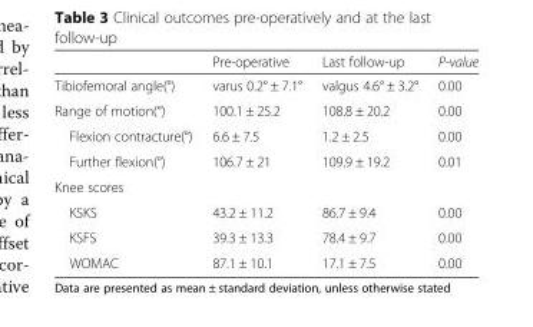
<table><thead><tr><td></td><td>Pre-operative</td><td>Last follow-up</td><td>P-value</td></tr></thead><tbody><tr><td>Tibiofemoral angle(°)</td><td>varus 0.2° ± 7.1°</td><td>valgus 4.6° ± 3.2°</td><td>0.00</td></tr><tr><td>Range of motion(°)</td><td>100.1 ± 25.2</td><td>108.8 ± 20.2</td><td>0.00</td></tr><tr><td>Flexion contracture(°)</td><td>6.6 ± 7.5</td><td>1.2 ± 2.5</td><td>0.00</td></tr><tr><td>Further flexion(°)</td><td>106.7 ± 21</td><td>109.9 ± 19.2</td><td>0.01</td></tr><tr><td colspan="4">Knee scores</td></tr><tr><td>KSKS</td><td>43.2 ± 11.2</td><td>86.7 ± 9.4</td><td>0.00</td></tr><tr><td>KSFS</td><td>39.3 ± 13.3</td><td>78.4 ± 9.7</td><td>0.00</td></tr><tr><td>WOMAC</td><td>87.1 ± 10.1</td><td>17.1 ± 7.5</td><td>0.00</td></tr></tbody></table>